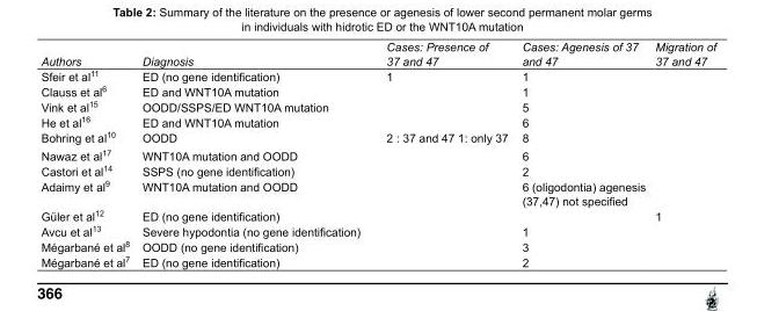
<table><tbody><tr><td>Authors</td><td>Diagnosis</td><td>Cases: Presence of 37 and 47</td><td>Cases: Agenesis of 37 and 47</td><td>Migration of 37 and 47</td></tr><tr><td>Sfeir et al<sup>11</sup></td><td>ED (no gene identification)</td><td>1</td><td>1</td><td></td></tr><tr><td>Clauss et al<sup>6</sup></td><td>ED and WNT10A mutation</td><td></td><td>1</td><td></td></tr><tr><td>Vink et al<sup>15</sup></td><td>OODD/SSPS/ED WNT10A mutation</td><td></td><td>5</td><td></td></tr><tr><td>He et al<sup>16</sup></td><td>ED and WNT10A mutation</td><td></td><td>6</td><td></td></tr><tr><td>Bohring et al<sup>10</sup></td><td>OODD</td><td>2 : 37 and 47 1: only 37</td><td>8</td><td></td></tr><tr><td>Nawaz et al<sup>17</sup></td><td>WNT10A mutation and OODD</td><td></td><td>6</td><td></td></tr><tr><td>Castori et al<sup>14</sup></td><td>SSPS (no gene identification)</td><td></td><td>2</td><td></td></tr><tr><td>Adaimy et al<sup>9</sup></td><td>WNT10A mutation and OODD</td><td></td><td>6 (oligodontia) agenesis (37,47) not specified</td><td></td></tr><tr><td>Güler et al12</td><td>ED (no gene identification)</td><td></td><td></td><td>1</td></tr><tr><td>Avcu et al<sup>13</sup></td><td>Severe hypodontia (no gene identification)</td><td></td><td>1</td><td></td></tr><tr><td>Mégarbané et al8</td><td>OODD (no gene identification)</td><td></td><td>3</td><td></td></tr><tr><td>Mégarbané et al7</td><td>ED (no gene identification)</td><td></td><td>2</td><td></td></tr></tbody></table>